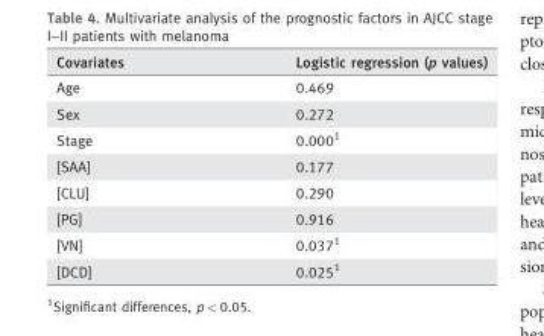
<table><thead><tr><td>Covariates</td><td>Logistic regression (p values)</td></tr></thead><tbody><tr><td>Age</td><td>0.469</td></tr><tr><td>Sex</td><td>0.272</td></tr><tr><td>Stage</td><td>0.0001</td></tr><tr><td>[SAA]</td><td>0.177</td></tr><tr><td>[CLU]</td><td>0.290</td></tr><tr><td>[PG]</td><td>0.916</td></tr><tr><td>[VN]</td><td>0.0371</td></tr><tr><td>[DCD]</td><td>0.0251</td></tr></tbody></table>